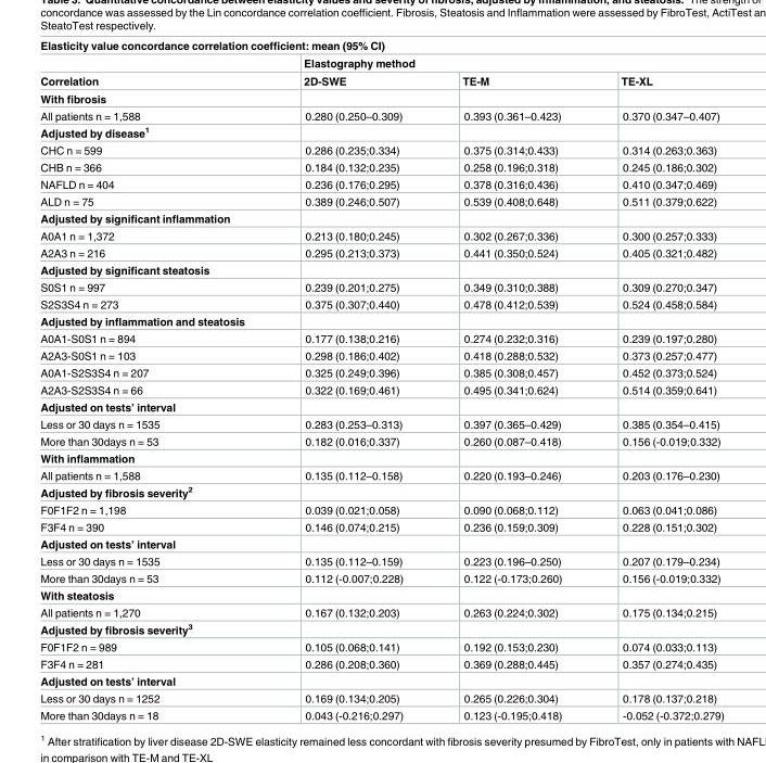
<table><thead><tr><td colspan="4">Elasticity value concordance correlation coefficient: mean (95% CI)</td></tr><tr><td rowspan="2">Correlation</td><td colspan="3">Elastography method</td></tr><tr><td>2D-SWE</td><td>TE-M</td><td>TE-XL</td></tr></thead><tbody><tr><td colspan="4">With fibrosis</td></tr><tr><td>All patients n = 1,588</td><td>0.280 (0.250–0.309)</td><td>0.393 (0.361–0.423)</td><td>0.370 (0.347–0.407)</td></tr><tr><td colspan="4">Adjusted by disease<sup>1</sup></td></tr><tr><td>CHC n = 599</td><td>0.286 (0.235;0.334)</td><td>0.375 (0.314;0.433)</td><td>0.314 (0.263;0.363)</td></tr><tr><td>CHB n = 366</td><td>0.184 (0.132;0.235)</td><td>0.258 (0.196;0.318)</td><td>0.245 (0.186;0.302)</td></tr><tr><td>NAFLD n = 404</td><td>0.236 (0.176;0.295)</td><td>0.378 (0.316;0.436)</td><td>0.410 (0.347;0.469)</td></tr><tr><td>ALD n = 75</td><td>0.389 (0.246;0.507)</td><td>0.539 (0.408;0.648)</td><td>0.511 (0.379;0.622)</td></tr><tr><td colspan="4">Adjusted by significant inflammation</td></tr><tr><td>A0A1 n = 1,372</td><td>0.213 (0.180;0.245)</td><td>0.302 (0.267;0.336)</td><td>0.300 (0.257;0.333)</td></tr><tr><td>A2A3 n = 216</td><td>0.295 (0.213;0.373)</td><td>0.441 (0.350;0.524)</td><td>0.405 (0.321;0.482)</td></tr><tr><td colspan="4">Adjusted by significant steatosis</td></tr><tr><td>S0S1 n = 997</td><td>0.239 (0.201;0.275)</td><td>0.349 (0.310;0.388)</td><td>0.309 (0.270;0.347)</td></tr><tr><td>S2S3S4 n = 273</td><td>0.375 (0.307;0.440)</td><td>0.478 (0.412;0.539)</td><td>0.524 (0.458;0.584)</td></tr><tr><td colspan="4">Adjusted by inflammation and steatosis</td></tr><tr><td>A0A1-S0S1 n = 894</td><td>0.177 (0.138;0.216)</td><td>0.274 (0.232;0.316)</td><td>0.239 (0.197;0.280)</td></tr><tr><td>A2A3-S0S1 n = 103</td><td>0.298 (0.186;0.402)</td><td>0.418 (0.288;0.532)</td><td>0.373 (0.257;0.477)</td></tr><tr><td>A0A1-S2S3S4 n = 207</td><td>0.325 (0.249;0.396)</td><td>0.385 (0.308;0.457)</td><td>0.452 (0.373;0.524)</td></tr><tr><td>A2A3-S2S3S4 n = 66</td><td>0.322 (0.169;0.461)</td><td>0.495 (0.341;0.624)</td><td>0.514 (0.359;0.641)</td></tr><tr><td colspan="4">Adjusted on tests’ interval</td></tr><tr><td>Less or 30 days n = 1535</td><td>0.283 (0.253–0.313)</td><td>0.397 (0.365–0.429)</td><td>0.385 (0.354–0.415)</td></tr><tr><td>More than 30days n = 53</td><td>0.182 (0.016;0.337)</td><td>0.260 (0.087–0.418)</td><td>0.156 (-0.019;0.332)</td></tr><tr><td colspan="4">With inflammation</td></tr><tr><td>All patients n = 1,588</td><td>0.135 (0.112–0.158)</td><td>0.220 (0.193–0.246)</td><td>0.203 (0.176–0.230)</td></tr><tr><td colspan="4">Adjusted by fibrosis severity<sup>2</sup></td></tr><tr><td>F0F1F2 n = 1,198</td><td>0.039 (0.021;0.058)</td><td>0.090 (0.068;0.112)</td><td>0.063 (0.041;0.086)</td></tr><tr><td>F3F4 n = 390</td><td>0.146 (0.074;0.215)</td><td>0.236 (0.159;0.309)</td><td>0.228 (0.151;0.302)</td></tr><tr><td colspan="4">Adjusted on tests’ interval</td></tr><tr><td>Less or 30 days n = 1535</td><td>0.135 (0.112–0.159)</td><td>0.223 (0.196–0.250)</td><td>0.207 (0.179–0.234)</td></tr><tr><td>More than 30days n = 53</td><td>0.112 (-0.007;0.228)</td><td>0.122 (-0.173;0.260)</td><td>0.156 (-0.019;0.332)</td></tr><tr><td colspan="4">With steatosis</td></tr><tr><td>All patients n = 1,270</td><td>0.167 (0.132;0.203)</td><td>0.263 (0.224;0.302)</td><td>0.175 (0.134;0.215)</td></tr><tr><td colspan="4">Adjusted by fibrosis severity<sup>3</sup></td></tr><tr><td>F0F1F2 n = 989</td><td>0.105 (0.068;0.141)</td><td>0.192 (0.153;0.230)</td><td>0.074 (0.033;0.113)</td></tr><tr><td>F3F4 n = 281</td><td>0.286 (0.208;0.360)</td><td>0.369 (0.288;0.445)</td><td>0.357 (0.274;0.435)</td></tr><tr><td colspan="4">Adjusted on tests’ interval</td></tr><tr><td>Less or 30 days n = 1252</td><td>0.169 (0.134;0.205)</td><td>0.265 (0.226;0.304)</td><td>0.178 (0.137;0.218)</td></tr><tr><td>More than 30days n = 18</td><td>0.043 (-0.216;0.297)</td><td>0.123 (-0.195;0.418)</td><td>-0.052 (-0.372;0.279)</td></tr></tbody></table>